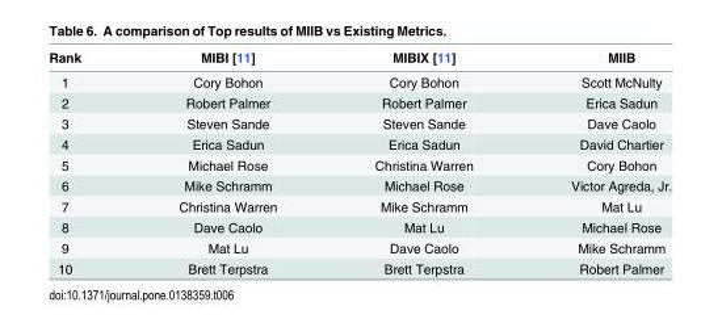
<table><thead><tr><td>Rank</td><td>MIBI [11]</td><td>MIBIX [11]</td><td>MIIB</td></tr></thead><tbody><tr><td>1</td><td>Cory Bohon</td><td>Cory Bohon</td><td>Scott McNulty</td></tr><tr><td>2</td><td>Robert Palmer</td><td>Robert Palmer</td><td>Erica Sadun</td></tr><tr><td>3</td><td>Steven Sande</td><td>Steven Sande</td><td>Dave Caolo</td></tr><tr><td>4</td><td>Erica Sadun</td><td>Erica Sadun</td><td>David Chartier</td></tr><tr><td>5</td><td>Michael Rose</td><td>Christina Warren</td><td>Cory Bohon</td></tr><tr><td>6</td><td>Mike Schramm</td><td>Michael Rose</td><td>Victor Agreda, Jr.</td></tr><tr><td>7</td><td>Christina Warren</td><td>Mike Schramm</td><td>Mat Lu</td></tr><tr><td>8</td><td>Dave Caolo</td><td>Mat Lu</td><td>Michael Rose</td></tr><tr><td>9</td><td>Mat Lu</td><td>Dave Caolo</td><td>Mike Schramm</td></tr><tr><td>10</td><td>Brett Terpstra</td><td>Brett Terpstra</td><td>Robert Palmer</td></tr></tbody></table>